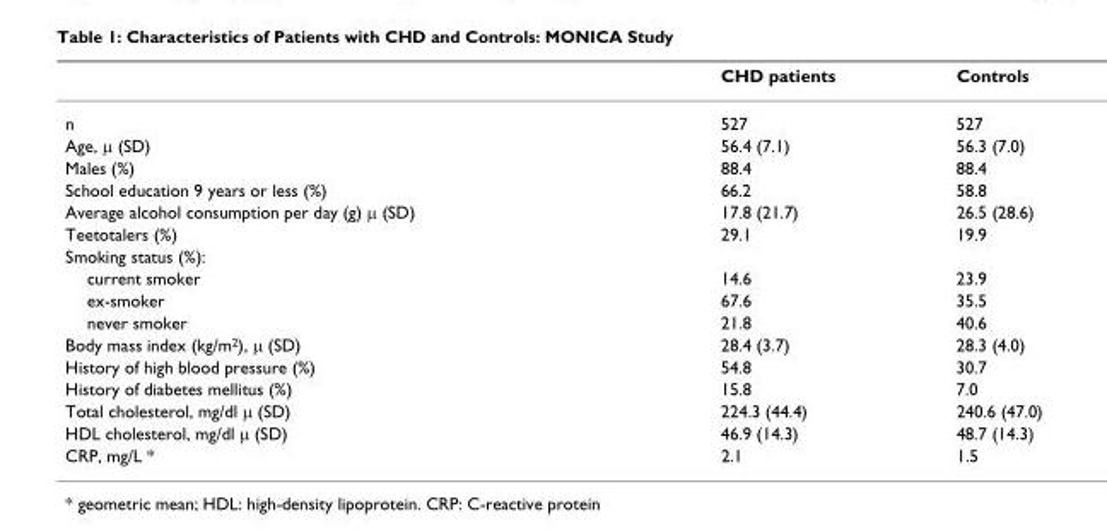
<table><thead><tr><td></td><td>CHD patients</td><td>Controls</td></tr></thead><tbody><tr><td>n</td><td>527</td><td>527</td></tr><tr><td>Age, μ (SD)</td><td>56.4 (7.1)</td><td>56.3 (7.0)</td></tr><tr><td>Males (%)</td><td>88.4</td><td>88.4</td></tr><tr><td>School education 9 years or less (%)</td><td>66.2</td><td>58.8</td></tr><tr><td>Average alcohol consumption per day (g) μ (SD)</td><td>17.8 (21.7)</td><td>26.5 (28.6)</td></tr><tr><td>Teetotalers (%)</td><td>29.1</td><td>19.9</td></tr><tr><td colspan="3">Smoking status (%):</td></tr><tr><td>current smoker</td><td>14.6</td><td>23.9</td></tr><tr><td>ex-smoker</td><td>67.6</td><td>35.5</td></tr><tr><td>never smoker</td><td>21.8</td><td>40.6</td></tr><tr><td>Body mass index (kg/m<sup>2</sup>), μ (SD)</td><td>28.4 (3.7)</td><td>28.3 (4.0)</td></tr><tr><td>History of high blood pressure (%)</td><td>54.8</td><td>30.7</td></tr><tr><td>History of diabetes mellitus (%)</td><td>15.8</td><td>7.0</td></tr><tr><td>Total cholesterol, mg/dl μ (SD)</td><td>224.3 (44.4)</td><td>240.6 (47.0)</td></tr><tr><td>HDL cholesterol, mg/dl μ (SD)</td><td>46.9 (14.3)</td><td>48.7 (14.3)</td></tr><tr><td>CRP, mg/L *</td><td>2.1</td><td>1.5</td></tr></tbody></table>